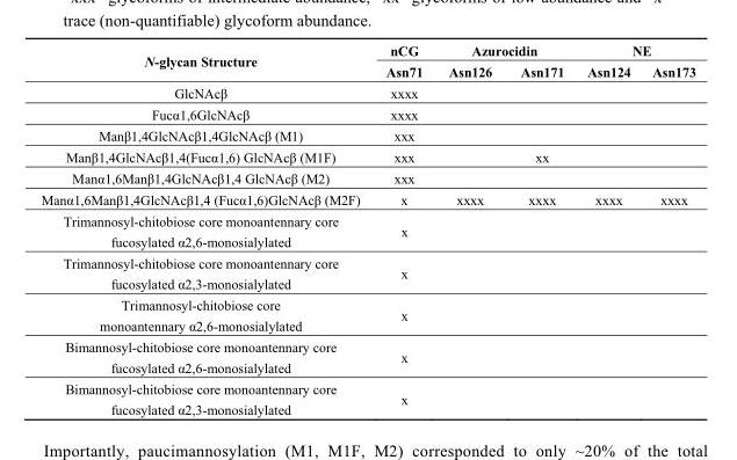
<table><thead><tr><td rowspan="2">N-glycan Structure</td><td rowspan="2">nCG Asn71</td><td colspan="2">Azurocidin</td><td colspan="2">NE</td></tr><tr><td>Asn126</td><td>Asn171</td><td>Asn124</td><td>Asn173</td></tr></thead><tbody><tr><td>GlcNAcβ</td><td>xxxx</td><td></td><td></td><td></td><td></td></tr><tr><td>Fucα1,6GlcNAcβ</td><td>xxxx</td><td></td><td></td><td></td><td></td></tr><tr><td>Manβ1,4GlcNAcβ1,4GlcNAcβ (M1)</td><td>xxx</td><td></td><td></td><td></td><td></td></tr><tr><td>Manβ1,4GlcNAcβ1,4(Fucα1,6) GlcNAcβ (M1F)</td><td>xxx</td><td></td><td>xx</td><td></td><td></td></tr><tr><td>Manα1,6Manβ1,4GlcNAcβ1,4 GlcNAcβ (M2)</td><td>xxx</td><td></td><td></td><td></td><td></td></tr><tr><td>Manα1,6Manβ1,4GlcNAcβ1,4 (Fucα1,6)GlcNAcβ (M2F)</td><td>x</td><td>xxxx</td><td>xxxx</td><td>xxxx</td><td>xxxx</td></tr><tr><td>Trimannosyl-chitobiose core monoantennary core fucosylated α2,6-monosialylated</td><td>x</td><td></td><td></td><td></td><td></td></tr><tr><td>Trimannosyl-chitobiose core monoantennary core fucosylated α2,3-monosialylated</td><td>x</td><td></td><td></td><td></td><td></td></tr><tr><td>Trimannosyl-chitobiose core monoantennary α2,6-monosialylated</td><td>x</td><td></td><td></td><td></td><td></td></tr><tr><td>Bimannosyl-chitobiose core monoantennary core fucosylated α2,6-monosialylated</td><td>x</td><td></td><td></td><td></td><td></td></tr><tr><td>Bimannosyl-chitobiose core monoantennary core fucosylated α2,3-monosialylated</td><td>x</td><td></td><td></td><td></td><td></td></tr></tbody></table>